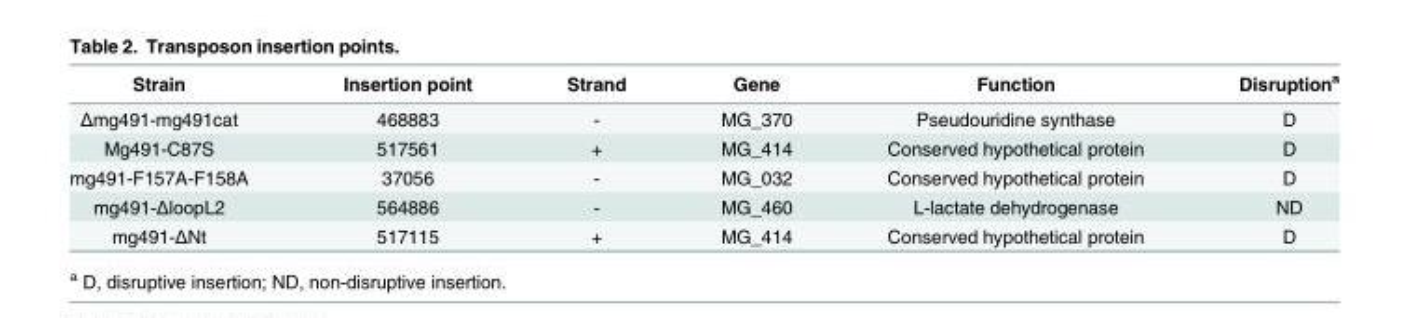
<table><thead><tr><td>Strain</td><td>Insertion point</td><td>Strand</td><td>Gene</td><td>Function</td><td>Disruption<sup>a</sup></td></tr></thead><tbody><tr><td>Δmg491-mg491cat</td><td>468883</td><td>-</td><td>MG_370</td><td>Pseudouridine synthase</td><td>D</td></tr><tr><td>Mg491-C87S</td><td>517561</td><td>+</td><td>MG_414</td><td>Conserved hypothetical protein</td><td>D</td></tr><tr><td>mg491-F157A-F158A</td><td>37056</td><td>-</td><td>MG_032</td><td>Conserved hypothetical protein</td><td>D</td></tr><tr><td>mg491-ΔloopL2</td><td>564886</td><td>-</td><td>MG_460</td><td>L-lactate dehydrogenase</td><td>ND</td></tr><tr><td>mg491-ΔNt</td><td>517115</td><td>+</td><td>MG_414</td><td>Conserved hypothetical protein</td><td>D</td></tr></tbody></table>